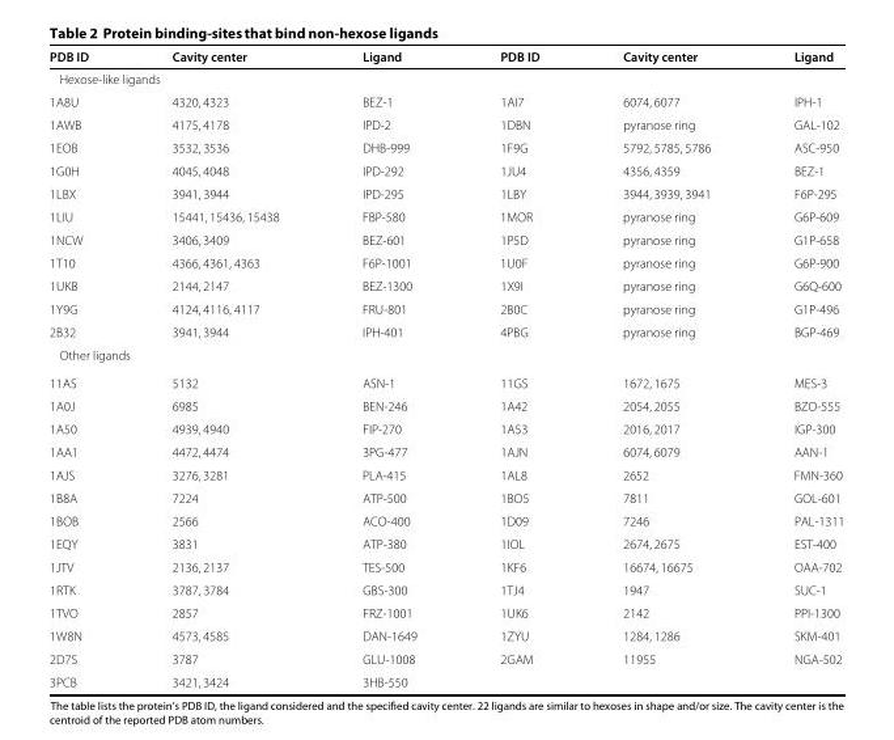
<table><thead><tr><td>PDB ID</td><td>Cavity center</td><td>Ligand</td><td>PDB ID</td><td>Cavity center</td><td>Ligand</td></tr></thead><tbody><tr><td colspan="6">Hexose-like ligands</td></tr><tr><td>1A8U</td><td>4320, 4323</td><td>BEZ-1</td><td>1AI7</td><td>6074, 6077</td><td>IPH-1</td></tr><tr><td>1AWB</td><td>4175, 4178</td><td>IPD-2</td><td>1DBN</td><td>pyranose ring</td><td>GAL-102</td></tr><tr><td>1EOB</td><td>3532, 3536</td><td>DHB-999</td><td>1F9G</td><td>5792, 5785, 5786</td><td>ASC-950</td></tr><tr><td>1G0H</td><td>4045, 4048</td><td>IPD-292</td><td>1JU4</td><td>4356, 4359</td><td>BEZ-1</td></tr><tr><td>1LBX</td><td>3941, 3944</td><td>IPD-295</td><td>1LBY</td><td>3944, 3939, 3941</td><td>F6P-295</td></tr><tr><td>1LIU</td><td>15441, 15436, 15438</td><td>FBP-580</td><td>1MOR</td><td>pyranose ring</td><td>G6P-609</td></tr><tr><td>1NCW</td><td>3406, 3409</td><td>BEZ-601</td><td>1P5D</td><td>pyranose ring</td><td>G1P-658</td></tr><tr><td>1T10</td><td>4366, 4361, 4363</td><td>F6P-1001</td><td>1U0F</td><td>pyranose ring</td><td>G6P-900</td></tr><tr><td>1UKB</td><td>2144, 2147</td><td>BEZ-1300</td><td>1X9I</td><td>pyranose ring</td><td>G6Q-600</td></tr><tr><td>1Y9G</td><td>4124, 4116, 4117</td><td>FRU-801</td><td>2B0C</td><td>pyranose ring</td><td>G1P-496</td></tr><tr><td>2B32</td><td>3941, 3944</td><td>IPH-401</td><td>4PBG</td><td>pyranose ring</td><td>BGP-469</td></tr><tr><td colspan="6">Other ligands</td></tr><tr><td>11AS</td><td>5132</td><td>ASN-1</td><td>11GS</td><td>1672, 1675</td><td>MES-3</td></tr><tr><td>1A0J</td><td>6985</td><td>BEN-246</td><td>1A42</td><td>2054, 2055</td><td>BZO-555</td></tr><tr><td>1A50</td><td>4939, 4940</td><td>FIP-270</td><td>1A53</td><td>2016, 2017</td><td>IGP-300</td></tr><tr><td>1AA1</td><td>4472, 4474</td><td>3PG-477</td><td>1AJN</td><td>6074, 6079</td><td>AAN-1</td></tr><tr><td>1AJS</td><td>3276, 3281</td><td>PLA-415</td><td>1AL8</td><td>2652</td><td>FMN-360</td></tr><tr><td>1B8A</td><td>7224</td><td>ATP-500</td><td>1BO5</td><td>7811</td><td>GOL-601</td></tr><tr><td>1BOB</td><td>2566</td><td>ACO-400</td><td>1D09</td><td>7246</td><td>PAL-1311</td></tr><tr><td>1EQY</td><td>3831</td><td>ATP-380</td><td>1IOL</td><td>2674, 2675</td><td>EST-400</td></tr><tr><td>1JTV</td><td>2136, 2137</td><td>TES-500</td><td>1KF6</td><td>16674, 16675</td><td>OAA-702</td></tr><tr><td>1RTK</td><td>3787, 3784</td><td>GBS-300</td><td>1TJ4</td><td>1947</td><td>SUC-1</td></tr><tr><td>1TVO</td><td>2857</td><td>FRZ-1001</td><td>1UK6</td><td>2142</td><td>PPI-1300</td></tr><tr><td>1W8N</td><td>4573, 4585</td><td>DAN-1649</td><td>1ZYU</td><td>1284, 1286</td><td>SKM-401</td></tr><tr><td>2D7S</td><td>3787</td><td>GLU-1008</td><td>2GAM</td><td>11955</td><td>NGA-502</td></tr><tr><td>3PCB</td><td>3421, 3424</td><td>3HB-550</td><td></td><td></td><td></td></tr></tbody></table>